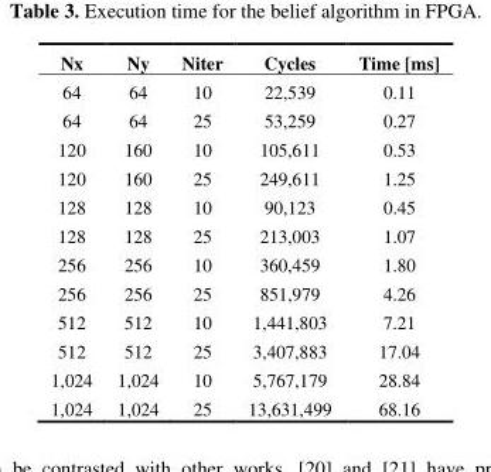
<table><thead><tr><td>Nx</td><td>Ny</td><td>Niter</td><td>Cycles</td><td>Time [ms]</td></tr></thead><tbody><tr><td>64</td><td>64</td><td>10</td><td>22,539</td><td>0.11</td></tr><tr><td>64</td><td>64</td><td>25</td><td>53,259</td><td>0.27</td></tr><tr><td>120</td><td>160</td><td>10</td><td>105,611</td><td>0.53</td></tr><tr><td>120</td><td>160</td><td>25</td><td>249,611</td><td>1.25</td></tr><tr><td>128</td><td>128</td><td>10</td><td>90,123</td><td>0.45</td></tr><tr><td>128</td><td>128</td><td>25</td><td>213,003</td><td>1.07</td></tr><tr><td>256</td><td>256</td><td>10</td><td>360,459</td><td>1.80</td></tr><tr><td>256</td><td>256</td><td>25</td><td>851,979</td><td>4.26</td></tr><tr><td>512</td><td>512</td><td>10</td><td>1,441,803</td><td>7.21</td></tr><tr><td>512</td><td>512</td><td>25</td><td>3,407,883</td><td>17.04</td></tr><tr><td>1,024</td><td>1,024</td><td>10</td><td>5,767,179</td><td>28.84</td></tr><tr><td>1,024</td><td>1,024</td><td>25</td><td>13,631,499</td><td>68.16</td></tr></tbody></table>